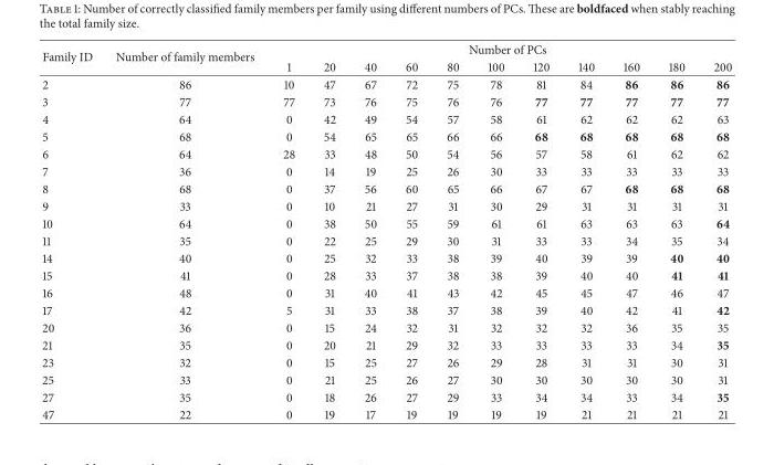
<table><thead><tr><td rowspan="2">Family ID</td><td rowspan="2">Number of family members</td><td colspan="11">Number of PCs</td></tr><tr><td>1</td><td>20</td><td>40</td><td>60</td><td>80</td><td>100</td><td>120</td><td>140</td><td>160</td><td>180</td><td>200</td></tr></thead><tbody><tr><td>2</td><td>86</td><td>10</td><td>47</td><td>67</td><td>72</td><td>75</td><td>78</td><td>81</td><td>84</td><td>86</td><td>86</td><td>86</td></tr><tr><td>3</td><td>77</td><td>77</td><td>73</td><td>76</td><td>75</td><td>76</td><td>76</td><td>77</td><td>77</td><td>77</td><td>77</td><td>77</td></tr><tr><td>4</td><td>64</td><td>0</td><td>42</td><td>49</td><td>54</td><td>57</td><td>58</td><td>61</td><td>62</td><td>62</td><td>62</td><td>63</td></tr><tr><td>5</td><td>68</td><td>0</td><td>54</td><td>65</td><td>65</td><td>66</td><td>66</td><td>68</td><td>68</td><td>68</td><td>68</td><td>68</td></tr><tr><td>6</td><td>64</td><td>28</td><td>33</td><td>48</td><td>50</td><td>54</td><td>56</td><td>57</td><td>58</td><td>61</td><td>62</td><td>62</td></tr><tr><td>7</td><td>36</td><td>0</td><td>14</td><td>19</td><td>25</td><td>26</td><td>30</td><td>33</td><td>33</td><td>33</td><td>33</td><td>33</td></tr><tr><td>8</td><td>68</td><td>0</td><td>37</td><td>56</td><td>60</td><td>65</td><td>66</td><td>67</td><td>67</td><td>68</td><td>68</td><td>68</td></tr><tr><td>9</td><td>33</td><td>0</td><td>10</td><td>21</td><td>27</td><td>31</td><td>30</td><td>29</td><td>31</td><td>31</td><td>31</td><td>31</td></tr><tr><td>10</td><td>64</td><td>0</td><td>38</td><td>50</td><td>55</td><td>59</td><td>61</td><td>61</td><td>63</td><td>63</td><td>63</td><td>64</td></tr><tr><td>11</td><td>35</td><td>0</td><td>22</td><td>25</td><td>29</td><td>30</td><td>31</td><td>33</td><td>33</td><td>34</td><td>35</td><td>34</td></tr><tr><td>14</td><td>40</td><td>0</td><td>25</td><td>32</td><td>33</td><td>38</td><td>39</td><td>40</td><td>39</td><td>39</td><td>40</td><td>40</td></tr><tr><td>15</td><td>41</td><td>0</td><td>28</td><td>33</td><td>37</td><td>38</td><td>38</td><td>39</td><td>40</td><td>40</td><td>41</td><td>41</td></tr><tr><td>16</td><td>48</td><td>0</td><td>31</td><td>40</td><td>41</td><td>43</td><td>42</td><td>45</td><td>45</td><td>47</td><td>46</td><td>47</td></tr><tr><td>17</td><td>42</td><td>5</td><td>31</td><td>33</td><td>38</td><td>37</td><td>38</td><td>39</td><td>40</td><td>42</td><td>41</td><td>42</td></tr><tr><td>20</td><td>36</td><td>0</td><td>15</td><td>24</td><td>32</td><td>31</td><td>32</td><td>32</td><td>32</td><td>36</td><td>35</td><td>35</td></tr><tr><td>21</td><td>35</td><td>0</td><td>20</td><td>21</td><td>29</td><td>32</td><td>33</td><td>33</td><td>33</td><td>33</td><td>34</td><td>35</td></tr><tr><td>23</td><td>32</td><td>0</td><td>15</td><td>25</td><td>27</td><td>26</td><td>29</td><td>28</td><td>31</td><td>31</td><td>30</td><td>31</td></tr><tr><td>25</td><td>33</td><td>0</td><td>21</td><td>25</td><td>26</td><td>27</td><td>30</td><td>30</td><td>30</td><td>30</td><td>30</td><td>31</td></tr><tr><td>27</td><td>35</td><td>0</td><td>18</td><td>26</td><td>27</td><td>29</td><td>33</td><td>34</td><td>34</td><td>33</td><td>34</td><td>35</td></tr><tr><td>47</td><td>22</td><td>0</td><td>19</td><td>17</td><td>19</td><td>19</td><td>19</td><td>19</td><td>21</td><td>21</td><td>21</td><td>21</td></tr></tbody></table>